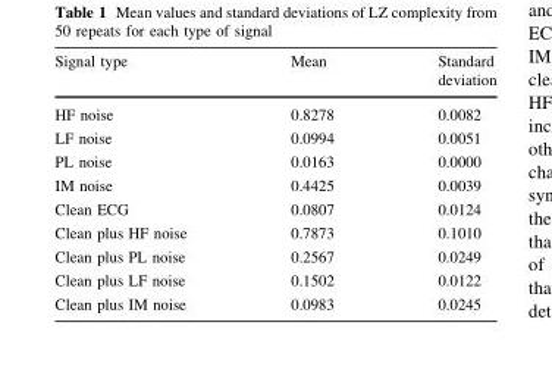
<table><thead><tr><td>Signal type</td><td>Mean</td><td>Standard deviation</td></tr></thead><tbody><tr><td>HF noise</td><td>0.8278</td><td>0.0082</td></tr><tr><td>LF noise</td><td>0.0994</td><td>0.0051</td></tr><tr><td>PL noise</td><td>0.0163</td><td>0.0000</td></tr><tr><td>IM noise</td><td>0.4425</td><td>0.0039</td></tr><tr><td>Clean ECG</td><td>0.0807</td><td>0.0124</td></tr><tr><td>Clean plus HF noise</td><td>0.7873</td><td>0.1010</td></tr><tr><td>Clean plus PL noise</td><td>0.2567</td><td>0.0249</td></tr><tr><td>Clean plus LF noise</td><td>0.1502</td><td>0.0122</td></tr><tr><td>Clean plus IM noise</td><td>0.0983</td><td>0.0245</td></tr></tbody></table>